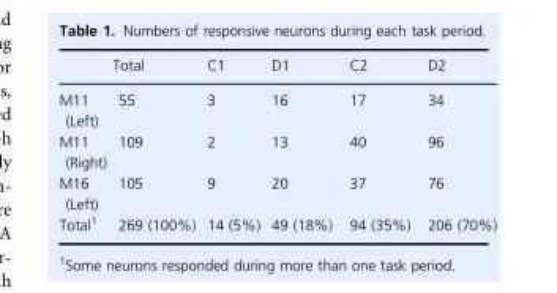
<table><thead><tr><td></td><td>Total</td><td>C1</td><td>D1</td><td>C2</td><td>D2</td></tr></thead><tbody><tr><td>M11 (Left)</td><td>55</td><td>3</td><td>16</td><td>17</td><td>34</td></tr><tr><td>M11 (Right)</td><td>109</td><td>2</td><td>13</td><td>40</td><td>96</td></tr><tr><td>M16 (Left)</td><td>105</td><td>9</td><td>20</td><td>37</td><td>76</td></tr><tr><td>Total<sup>1</sup></td><td>269 (100%)</td><td>14 (5%)</td><td>49 (18%)</td><td>94 (35%)</td><td>206 (70%)</td></tr></tbody></table>